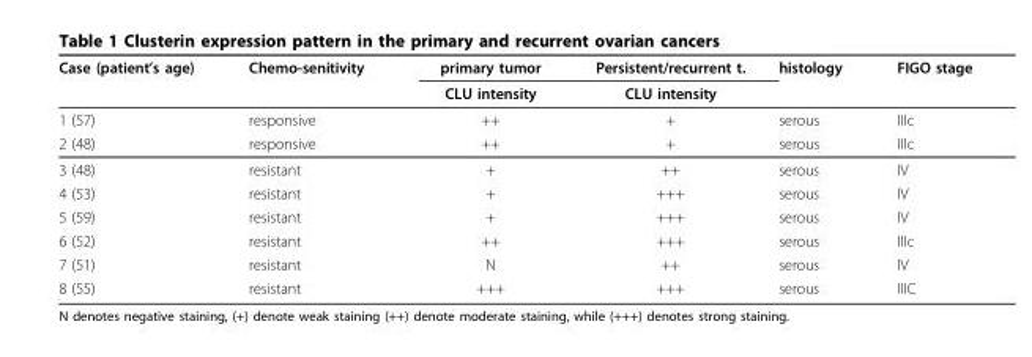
<table><thead><tr><td rowspan="2">Case (patient’s age)</td><td rowspan="2">Chemo-senitivity</td><td rowspan="2">primary tumor CLU intensity</td><td rowspan="2">Persistent/recurrent t. CLU intensity</td><td rowspan="2">histology</td><td rowspan="2">FIGO stage</td></tr><tr></tr></thead><tbody><tr><td>1 (57)</td><td>responsive</td><td>++</td><td>+</td><td>serous</td><td>IIIc</td></tr><tr><td>2 (48)</td><td>responsive</td><td>++</td><td>+</td><td>serous</td><td>IIIc</td></tr><tr><td>3 (48)</td><td>resistant</td><td>+</td><td>++</td><td>serous</td><td>IV</td></tr><tr><td>4 (53)</td><td>resistant</td><td>+</td><td>+++</td><td>serous</td><td>IV</td></tr><tr><td>5 (59)</td><td>resistant</td><td>+</td><td>+++</td><td>serous</td><td>IV</td></tr><tr><td>6 (52)</td><td>resistant</td><td>++</td><td>+++</td><td>serous</td><td>IIIc</td></tr><tr><td>7 (51)</td><td>resistant</td><td>N</td><td>++</td><td>serous</td><td>IV</td></tr><tr><td>8 (55)</td><td>resistant</td><td>+++</td><td>+++</td><td>serous</td><td>IIIC</td></tr></tbody></table>